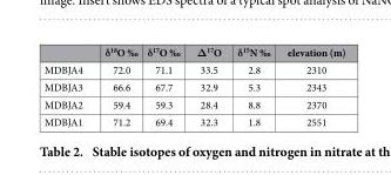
<table><thead><tr><td></td><td>δ<sup>18</sup>O ‰</td><td>δ<sup>17</sup>O ‰</td><td>Δ<sup>17</sup>O</td><td>δ<sup>15</sup>N ‰</td><td>elevation (m)</td></tr></thead><tbody><tr><td>MDBJA4</td><td>72.0</td><td>71.1</td><td>33.5</td><td>2.8</td><td>2310</td></tr><tr><td>MDBJA3</td><td>66.6</td><td>67.7</td><td>32.9</td><td>5.3</td><td>2343</td></tr><tr><td>MDBJA2</td><td>59.4</td><td>59.3</td><td>28.4</td><td>8.8</td><td>2370</td></tr><tr><td>MDBJA1</td><td>71.2</td><td>69.4</td><td>32.3</td><td>1.8</td><td>2551</td></tr></tbody></table>